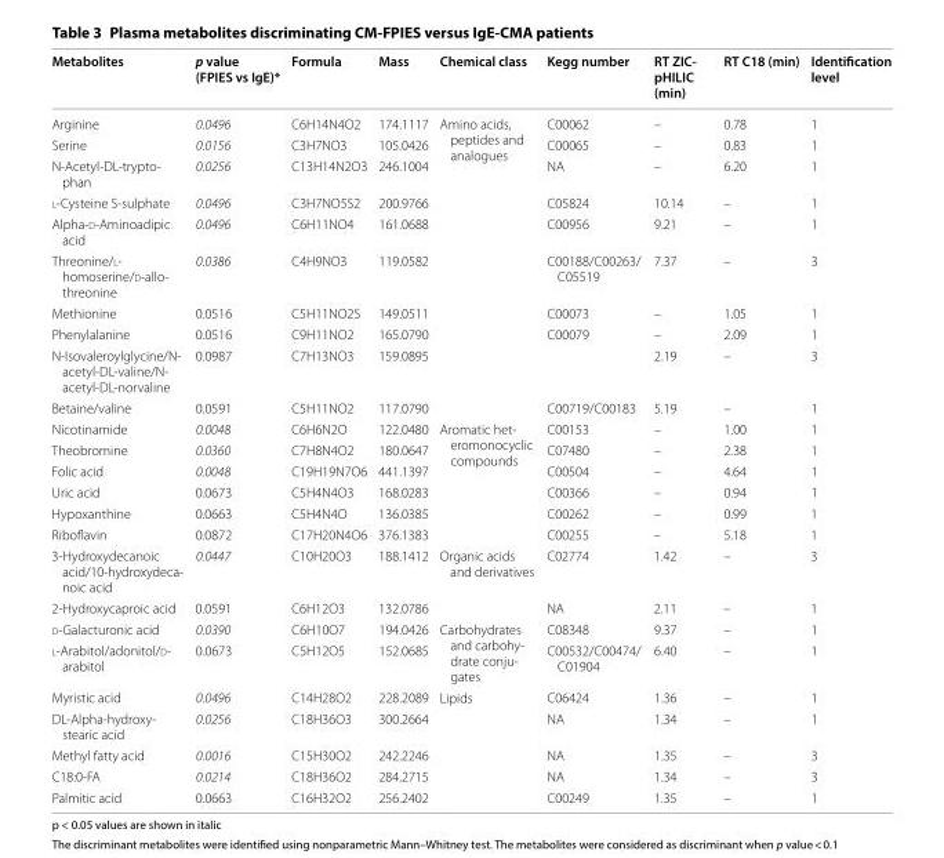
<table><thead><tr><td>Metabolites</td><td>p value (FPIES vs IgE)*</td><td>Formula</td><td>Mass</td><td>Chemical class</td><td>Kegg number</td><td>RT ZIC‑ pHILIC (min)</td><td>RT C18 (min)</td><td>Identification level</td></tr></thead><tbody><tr><td>Arginine</td><td>0.0496</td><td>C6H14N4O2</td><td>174.1117</td><td rowspan="10">Amino acids, peptides and analogues</td><td>C00062</td><td>–</td><td>0.78</td><td>1</td></tr><tr><td>Serine</td><td>0.0156</td><td>C3H7NO3</td><td>105.0426</td><td>C00065</td><td>–</td><td>0.83</td><td>1</td></tr><tr><td>N‑Acetyl‑DL‑trypto‑ phan</td><td>0.0256</td><td>C13H14N2O3</td><td>246.1004</td><td>NA</td><td>–</td><td>6.20</td><td>1</td></tr><tr><td>l‑Cysteine S‑sulphate</td><td>0.0496</td><td>C3H7NO5S2</td><td>200.9766</td><td>C05824</td><td>10.14</td><td>–</td><td>1</td></tr><tr><td>Alpha‑d‑Aminoadipic acid</td><td>0.0496</td><td>C6H11NO4</td><td>161.0688</td><td>C00956</td><td>9.21</td><td>–</td><td>1</td></tr><tr><td>Threonine/l‑ homoserine/d‑allo‑ threonine</td><td>0.0386</td><td>C4H9NO3</td><td>119.0582</td><td>C00188/C00263/ C05519</td><td>7.37</td><td>–</td><td>3</td></tr><tr><td>Methionine</td><td>0.0516</td><td>C5H11NO2S</td><td>149.0511</td><td>C00073</td><td>–</td><td>1.05</td><td>1</td></tr><tr><td>Phenylalanine</td><td>0.0516</td><td>C9H11NO2</td><td>165.0790</td><td>C00079</td><td>–</td><td>2.09</td><td>1</td></tr><tr><td>N‑Isovaleroylglycine/N‑ acetyl‑DL‑valine/N‑ acetyl‑DL‑norvaline</td><td>0.0987</td><td>C7H13NO3</td><td>159.0895</td><td></td><td>2.19</td><td>–</td><td>3</td></tr><tr><td>Betaine/valine</td><td>0.0591</td><td>C5H11NO2</td><td>117.0790</td><td>C00719/C00183</td><td>5.19</td><td>–</td><td>1</td></tr><tr><td>Nicotinamide</td><td>0.0048</td><td>C6H6N2O</td><td>122.0480</td><td rowspan="6">Aromatic het‑ eromonocyclic compounds</td><td>C00153</td><td>–</td><td>1.00</td><td>1</td></tr><tr><td>Theobromine</td><td>0.0360</td><td>C7H8N4O2</td><td>180.0647</td><td>C07480</td><td>–</td><td>2.38</td><td>1</td></tr><tr><td>Folic acid</td><td>0.0048</td><td>C19H19N7O6</td><td>441.1397</td><td>C00504</td><td>–</td><td>4.64</td><td>1</td></tr><tr><td>Uric acid</td><td>0.0673</td><td>C5H4N4O3</td><td>168.0283</td><td>C00366</td><td>–</td><td>0.94</td><td>1</td></tr><tr><td>Hypoxanthine</td><td>0.0663</td><td>C5H4N4O</td><td>136.0385</td><td>C00262</td><td>–</td><td>0.99</td><td>1</td></tr><tr><td>Riboflavin</td><td>0.0872</td><td>C17H20N4O6</td><td>376.1383</td><td>C00255</td><td>–</td><td>5.18</td><td>1</td></tr><tr><td>3‑Hydroxydecanoic acid/10‑hydroxydeca‑ noic acid</td><td>0.0447</td><td>C10H20O3</td><td>188.1412</td><td rowspan="2">Organic acids and derivatives</td><td>C02774</td><td>1.42</td><td>–</td><td>3</td></tr><tr><td>2‑Hydroxycaproic acid</td><td>0.0591</td><td>C6H12O3</td><td>132.0786</td><td>NA</td><td>2.11</td><td>–</td><td>1</td></tr><tr><td>d‑Galacturonic acid</td><td>0.0390</td><td>C6H10O7</td><td>194.0426</td><td rowspan="2">Carbohydrates and carbohy‑ drate conju‑ gates</td><td>C08348</td><td>9.37</td><td>–</td><td>1</td></tr><tr><td>l‑Arabitol/adonitol/d‑ arabitol</td><td>0.0673</td><td>C5H12O5</td><td>152.0685</td><td>C00532/C00474/ C01904</td><td>6.40</td><td>–</td><td>1</td></tr><tr><td>Myristic acid</td><td>0.0496</td><td>C14H28O2</td><td>228.2089</td><td rowspan="5">Lipids</td><td>C06424</td><td>1.36</td><td>–</td><td>1</td></tr><tr><td>DL‑Alpha‑hydroxy‑ stearic acid</td><td>0.0256</td><td>C18H36O3</td><td>300.2664</td><td>NA</td><td>1.34</td><td>–</td><td>1</td></tr><tr><td>Methyl fatty acid</td><td>0.0016</td><td>C15H30O2</td><td>242.2246</td><td>NA</td><td>1.35</td><td>–</td><td>3</td></tr><tr><td>C18:0‑FA</td><td>0.0214</td><td>C18H36O2</td><td>284.2715</td><td>NA</td><td>1.34</td><td>–</td><td>3</td></tr><tr><td>Palmitic acid</td><td>0.0663</td><td>C16H32O2</td><td>256.2402</td><td>C00249</td><td>1.35</td><td>–</td><td>1</td></tr></tbody></table>